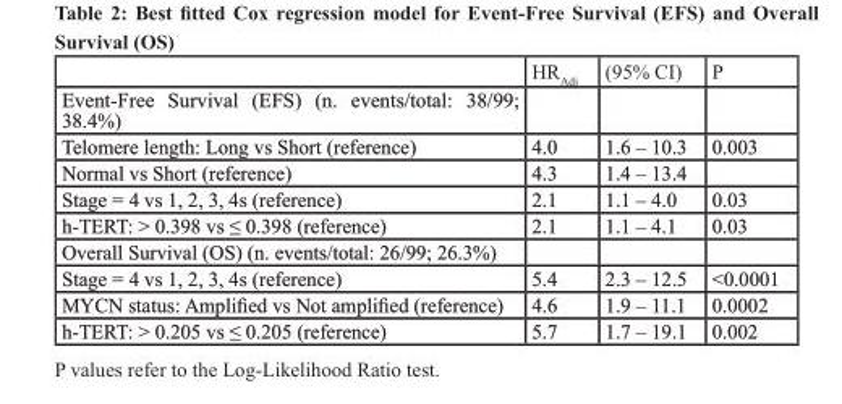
<table><thead><tr><td></td><td>HRAdj</td><td>(95% CI)</td><td>P</td></tr></thead><tbody><tr><td colspan="4">Event-Free Survival (EFS) (n. events/total: 38/99; 38.4%)</td></tr><tr><td>Telomere length: Long vs Short (reference)</td><td>4.0</td><td>1.6 – 10.3</td><td>0.003</td></tr><tr><td>Normal vs Short (reference)</td><td>4.3</td><td>1.4 – 13.4</td><td></td></tr><tr><td>Stage = 4 vs 1, 2, 3, 4s (reference)</td><td>2.1</td><td>1.1 – 4.0</td><td>0.03</td></tr><tr><td>h-TERT: &gt; 0.398 vs ≤ 0.398 (reference)</td><td>2.1</td><td>1.1 – 4.1</td><td>0.03</td></tr><tr><td colspan="4">Overall Survival (OS) (n. events/total: 26/99; 26.3%)</td></tr><tr><td>Stage = 4 vs 1, 2, 3, 4s (reference)</td><td>5.4</td><td>2.3 – 12.5</td><td>&lt;0.0001</td></tr><tr><td>MYCN status: Amplified vs Not amplified (reference)</td><td>4.6</td><td>1.9 – 11.1</td><td>0.0002</td></tr><tr><td>h-TERT: &gt; 0.205 vs ≤ 0.205 (reference)</td><td>5.7</td><td>1.7 – 19.1</td><td>0.002</td></tr></tbody></table>